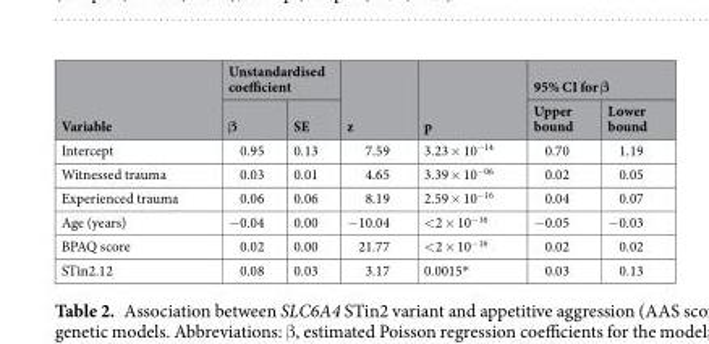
<table><thead><tr><td rowspan="2">Variable</td><td colspan="2">Unstandardised coefficient</td><td rowspan="2">z</td><td rowspan="2">p</td><td colspan="2">95% CI for β</td></tr><tr><td>β</td><td>SE</td><td>Upper bound</td><td>Lower bound</td></tr></thead><tbody><tr><td>Intercept</td><td>0.95</td><td>0.13</td><td>7.59</td><td>3.23 × 10<sup>−14</sup></td><td>0.70</td><td>1.19</td></tr><tr><td>Witnessed trauma</td><td>0.03</td><td>0.01</td><td>4.65</td><td>3.39 × 10<sup>−06</sup></td><td>0.02</td><td>0.05</td></tr><tr><td>Experienced trauma</td><td>0.06</td><td>0.06</td><td>8.19</td><td>2.59 × 10<sup>−16</sup></td><td>0.04</td><td>0.07</td></tr><tr><td>Age (years)</td><td>−0.04</td><td>0.00</td><td>−10.04</td><td>&lt;2 × 10<sup>−16</sup></td><td>−0.05</td><td>−0.03</td></tr><tr><td>BPAQ score</td><td>0.02</td><td>0.00</td><td>21.77</td><td>&lt;2 × 10<sup>−16</sup></td><td>0.02</td><td>0.02</td></tr><tr><td>STin2.12</td><td>0.08</td><td>0.03</td><td>3.17</td><td>0.0015*</td><td>0.03</td><td>0.13</td></tr></tbody></table>